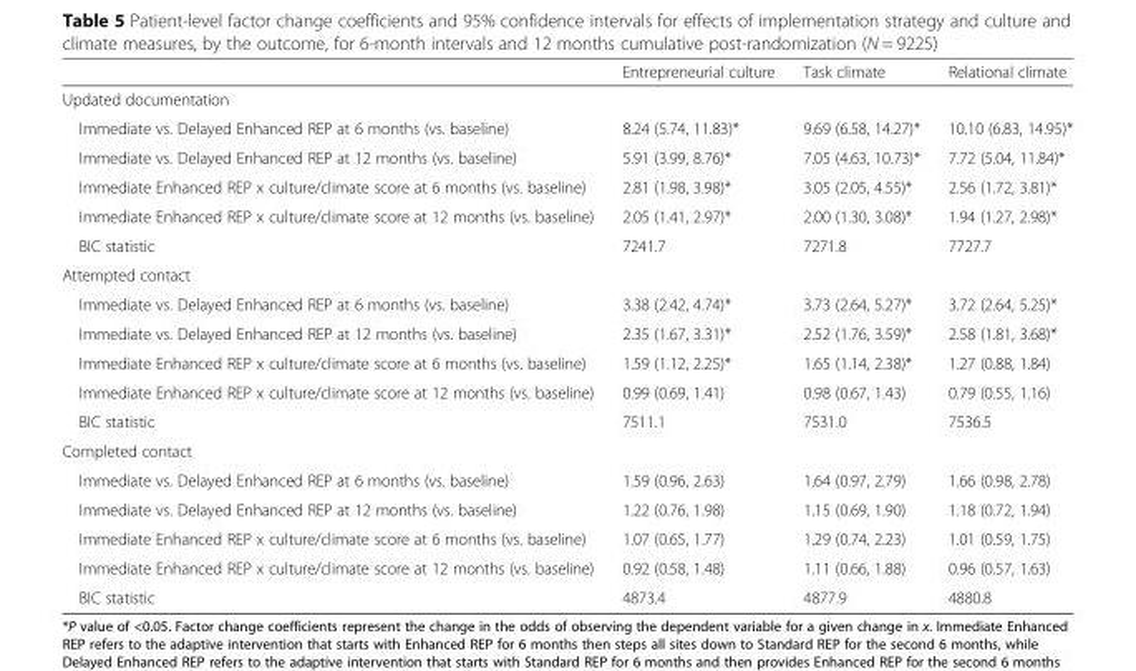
<table><thead><tr><td></td><td>Entrepreneurial culture</td><td>Task climate</td><td>Relational climate</td></tr></thead><tbody><tr><td colspan="4">Updated documentation</td></tr><tr><td>Immediate vs. Delayed Enhanced REP at 6 months (vs. baseline)</td><td>8.24 (5.74, 11.83)*</td><td>9.69 (6.58, 14.27)*</td><td>10.10 (6.83, 14.95)*</td></tr><tr><td>Immediate vs. Delayed Enhanced REP at 12 months (vs. baseline)</td><td>5.91 (3.99, 8.76)*</td><td>7.05 (4.63, 10.73)*</td><td>7.72 (5.04, 11.84)*</td></tr><tr><td>Immediate Enhanced REP x culture/climate score at 6 months (vs. baseline)</td><td>2.81 (1.98, 3.98)*</td><td>3.05 (2.05, 4.55)*</td><td>2.56 (1.72, 3.81)*</td></tr><tr><td>Immediate Enhanced REP x culture/climate score at 12 months (vs. baseline)</td><td>2.05 (1.41, 2.97)*</td><td>2.00 (1.30, 3.08)*</td><td>1.94 (1.27, 2.98)*</td></tr><tr><td>BIC statistic</td><td>7241.7</td><td>7271.8</td><td>7727.7</td></tr><tr><td colspan="4">Attempted contact</td></tr><tr><td>Immediate vs. Delayed Enhanced REP at 6 months (vs. baseline)</td><td>3.38 (2.42, 4.74)*</td><td>3.73 (2.64, 5.27)*</td><td>3.72 (2.64, 5.25)*</td></tr><tr><td>Immediate vs. Delayed Enhanced REP at 12 months (vs. baseline)</td><td>2.35 (1.67, 3.31)*</td><td>2.52 (1.76, 3.59)*</td><td>2.58 (1.81, 3.68)*</td></tr><tr><td>Immediate Enhanced REP x culture/climate score at 6 months (vs. baseline)</td><td>1.59 (1.12, 2.25)*</td><td>1.65 (1.14, 2.38)*</td><td>1.27 (0.88, 1.84)</td></tr><tr><td>Immediate Enhanced REP x culture/climate score at 12 months (vs. baseline)</td><td>0.99 (0.69, 1.41)</td><td>0.98 (0.67, 1.43)</td><td>0.79 (0.55, 1.16)</td></tr><tr><td>BIC statistic</td><td>7511.1</td><td>7531.0</td><td>7536.5</td></tr><tr><td colspan="4">Completed contact</td></tr><tr><td>Immediate vs. Delayed Enhanced REP at 6 months (vs. baseline)</td><td>1.59 (0.96, 2.63)</td><td>1.64 (0.97, 2.79)</td><td>1.66 (0.98, 2.78)</td></tr><tr><td>Immediate vs. Delayed Enhanced REP at 12 months (vs. baseline)</td><td>1.22 (0.76, 1.98)</td><td>1.15 (0.69, 1.90)</td><td>1.18 (0.72, 1.94)</td></tr><tr><td>Immediate Enhanced REP x culture/climate score at 6 months (vs. baseline)</td><td>1.07 (0.65, 1.77)</td><td>1.29 (0.74, 2.23)</td><td>1.01 (0.59, 1.75)</td></tr><tr><td>Immediate Enhanced REP x culture/climate score at 12 months (vs. baseline)</td><td>0.92 (0.58, 1.48)</td><td>1.11 (0.66, 1.88)</td><td>0.96 (0.57, 1.63)</td></tr><tr><td>BIC statistic</td><td>4873.4</td><td>4877.9</td><td>4880.8</td></tr></tbody></table>